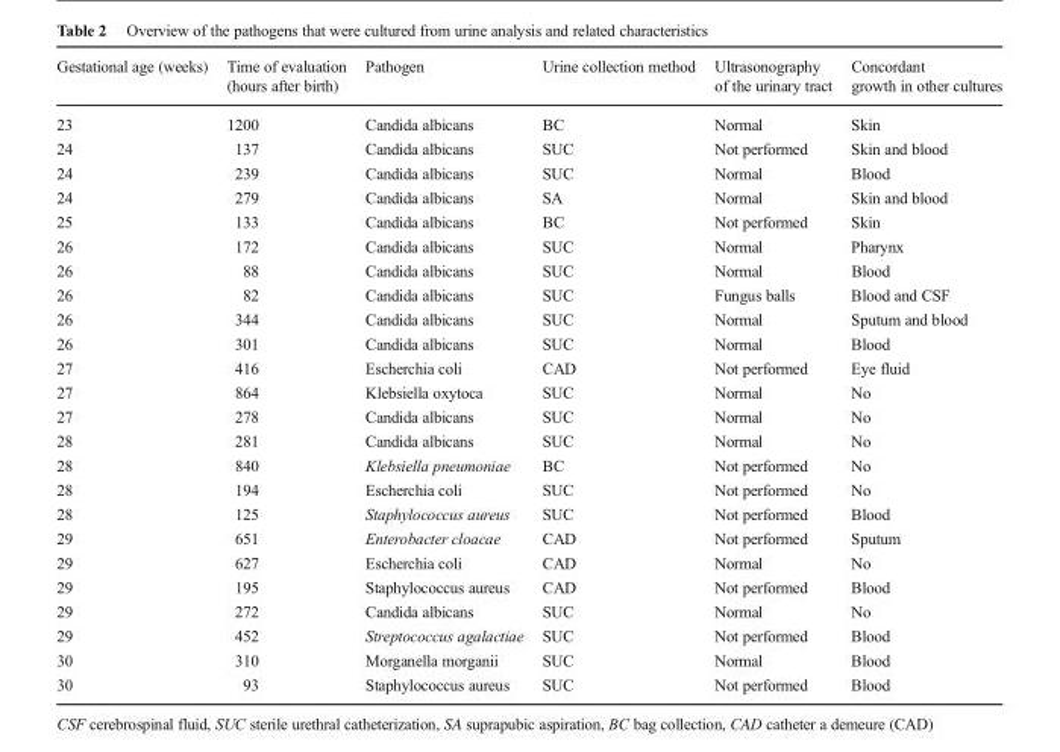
<table><thead><tr><td>Gestational age (weeks)</td><td>Time of evaluation (hours after birth)</td><td>Pathogen</td><td>Urine collection method</td><td>Ultrasonography of the urinary tract</td><td>Concordant growth in other cultures</td></tr></thead><tbody><tr><td>23</td><td>1200</td><td>Candida albicans</td><td>BC</td><td>Normal</td><td>Skin</td></tr><tr><td>24</td><td>137</td><td>Candida albicans</td><td>SUC</td><td>Not performed</td><td>Skin and blood</td></tr><tr><td>24</td><td>239</td><td>Candida albicans</td><td>SUC</td><td>Normal</td><td>Blood</td></tr><tr><td>24</td><td>279</td><td>Candida albicans</td><td>SA</td><td>Normal</td><td>Skin and blood</td></tr><tr><td>25</td><td>133</td><td>Candida albicans</td><td>BC</td><td>Not performed</td><td>Skin</td></tr><tr><td>26</td><td>172</td><td>Candida albicans</td><td>SUC</td><td>Normal</td><td>Pharynx</td></tr><tr><td>26</td><td>88</td><td>Candida albicans</td><td>SUC</td><td>Normal</td><td>Blood</td></tr><tr><td>26</td><td>82</td><td>Candida albicans</td><td>SUC</td><td>Fungus balls</td><td>Blood and CSF</td></tr><tr><td>26</td><td>344</td><td>Candida albicans</td><td>SUC</td><td>Normal</td><td>Sputum and blood</td></tr><tr><td>26</td><td>301</td><td>Candida albicans</td><td>SUC</td><td>Normal</td><td>Blood</td></tr><tr><td>27</td><td>416</td><td>Escherchia coli</td><td>CAD</td><td>Not performed</td><td>Eye fluid</td></tr><tr><td>27</td><td>864</td><td>Klebsiella oxytoca</td><td>SUC</td><td>Normal</td><td>No</td></tr><tr><td>27</td><td>278</td><td>Candida albicans</td><td>SUC</td><td>Normal</td><td>No</td></tr><tr><td>28</td><td>281</td><td>Candida albicans</td><td>SUC</td><td>Normal</td><td>No</td></tr><tr><td>28</td><td>840</td><td>Klebsiella pneumoniae</td><td>BC</td><td>Not performed</td><td>No</td></tr><tr><td>28</td><td>194</td><td>Escherchia coli</td><td>SUC</td><td>Not performed</td><td>No</td></tr><tr><td>28</td><td>125</td><td>Staphylococcus aureus</td><td>SUC</td><td>Not performed</td><td>Blood</td></tr><tr><td>29</td><td>651</td><td>Enterobacter cloacae</td><td>CAD</td><td>Not performed</td><td>Sputum</td></tr><tr><td>29</td><td>627</td><td>Escherchia coli</td><td>CAD</td><td>Normal</td><td>No</td></tr><tr><td>29</td><td>195</td><td>Staphylococcus aureus</td><td>CAD</td><td>Not performed</td><td>Blood</td></tr><tr><td>29</td><td>272</td><td>Candida albicans</td><td>SUC</td><td>Normal</td><td>No</td></tr><tr><td>29</td><td>452</td><td>Streptococcus agalactiae</td><td>SUC</td><td>Not performed</td><td>Blood</td></tr><tr><td>30</td><td>310</td><td>Morganella morganii</td><td>SUC</td><td>Normal</td><td>Blood</td></tr><tr><td>30</td><td>93</td><td>Staphylococcus aureus</td><td>SUC</td><td>Not performed</td><td>Blood</td></tr></tbody></table>